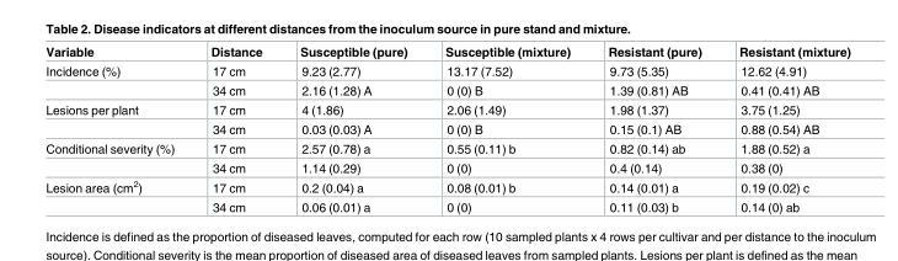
<table><thead><tr><td>Variable</td><td>Distance</td><td>Susceptible (pure)</td><td>Susceptible (mixture)</td><td>Resistant (pure)</td><td>Resistant (mixture)</td></tr></thead><tbody><tr><td rowspan="2">Incidence (%)</td><td>17 cm</td><td>9.23 (2.77)</td><td>13.17 (7.52)</td><td>9.73 (5.35)</td><td>12.62 (4.91)</td></tr><tr><td>34 cm</td><td>2.16 (1.28) A</td><td>0 (0) B</td><td>1.39 (0.81) AB</td><td>0.41 (0.41) AB</td></tr><tr><td rowspan="2">Lesions per plant</td><td>17 cm</td><td>4 (1.86)</td><td>2.06 (1.49)</td><td>1.98 (1.37)</td><td>3.75 (1.25)</td></tr><tr><td>34 cm</td><td>0.03 (0.03) A</td><td>0 (0) B</td><td>0.15 (0.1) AB</td><td>0.88 (0.54) AB</td></tr><tr><td rowspan="2">Conditional severity (%)</td><td>17 cm</td><td>2.57 (0.78) a</td><td>0.55 (0.11) b</td><td>0.82 (0.14) ab</td><td>1.88 (0.52) a</td></tr><tr><td>34 cm</td><td>1.14 (0.29)</td><td>0 (0)</td><td>0.4 (0.14)</td><td>0.38 (0)</td></tr><tr><td rowspan="2">Lesion area (cm<sup>2</sup>)</td><td>17 cm</td><td>0.2 (0.04) a</td><td>0.08 (0.01) b</td><td>0.14 (0.01) a</td><td>0.19 (0.02) c</td></tr><tr><td>34 cm</td><td>0.06 (0.01) a</td><td>0 (0)</td><td>0.11 (0.03) b</td><td>0.14 (0) ab</td></tr></tbody></table>